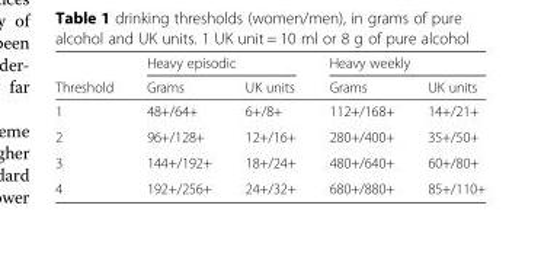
<table><thead><tr><td rowspan="2">Threshold</td><td colspan="2">Heavy episodic</td><td colspan="2">Heavy weekly</td></tr><tr><td>Grams</td><td>UK units</td><td>Grams</td><td>UK units</td></tr></thead><tbody><tr><td>1</td><td>48+/64+</td><td>6+/8+</td><td>112+/168+</td><td>14+/21+</td></tr><tr><td>2</td><td>96+/128+</td><td>12+/16+</td><td>280+/400+</td><td>35+/50+</td></tr><tr><td>3</td><td>144+/192+</td><td>18+/24+</td><td>480+/640+</td><td>60+/80+</td></tr><tr><td>4</td><td>192+/256+</td><td>24+/32+</td><td>680+/880+</td><td>85+/110+</td></tr></tbody></table>